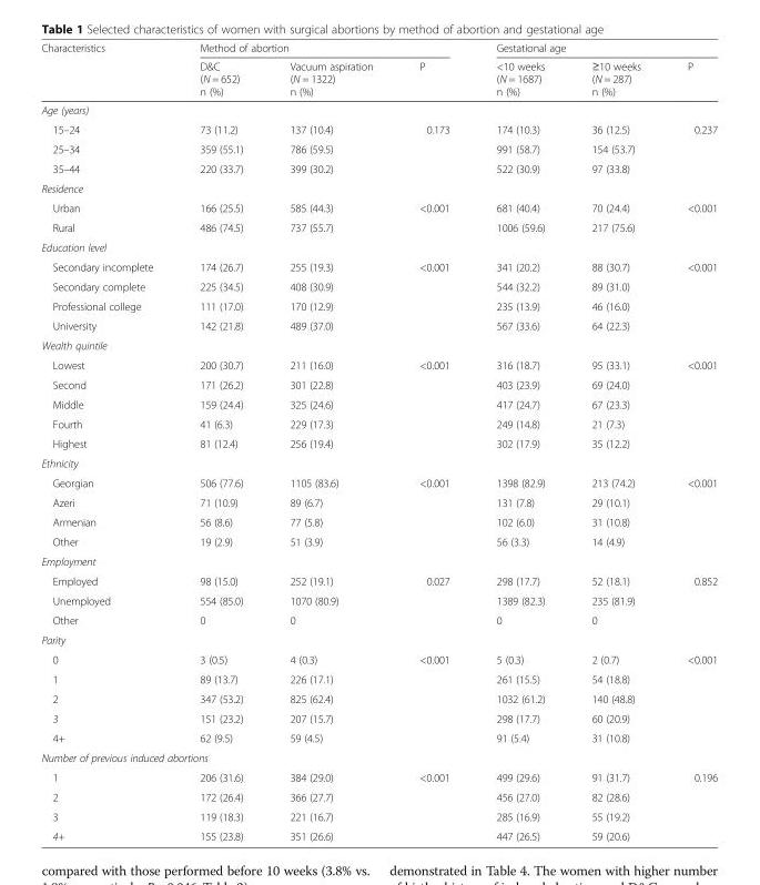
<table><thead><tr><td rowspan="2">Characteristics</td><td colspan="3">Method of abortion</td><td colspan="3">Gestational age</td></tr><tr><td>D&amp;C (N = 652) n (%)</td><td>Vacuum aspiration (N = 1322) n (%)</td><td>P</td><td>&lt;10 weeks (N = 1687) n (%)</td><td>≥10 weeks (N = 287) n (%)</td><td>P</td></tr></thead><tbody><tr><td colspan="7">Age (years)</td></tr><tr><td>15–24</td><td>73 (11.2)</td><td>137 (10.4)</td><td>0.173</td><td>174 (10.3)</td><td>36 (12.5)</td><td>0.237</td></tr><tr><td>25–34</td><td>359 (55.1)</td><td>786 (59.5)</td><td></td><td>991 (58.7)</td><td>154 (53.7)</td><td></td></tr><tr><td>35–44</td><td>220 (33.7)</td><td>399 (30.2)</td><td></td><td>522 (30.9)</td><td>97 (33.8)</td><td></td></tr><tr><td colspan="7">Residence</td></tr><tr><td>Urban</td><td>166 (25.5)</td><td>585 (44.3)</td><td>&lt;0.001</td><td>681 (40.4)</td><td>70 (24.4)</td><td>&lt;0.001</td></tr><tr><td>Rural</td><td>486 (74.5)</td><td>737 (55.7)</td><td></td><td>1006 (59.6)</td><td>217 (75.6)</td><td></td></tr><tr><td colspan="7">Education level</td></tr><tr><td>Secondary incomplete</td><td>174 (26.7)</td><td>255 (19.3)</td><td>&lt;0.001</td><td>341 (20.2)</td><td>88 (30.7)</td><td>&lt;0.001</td></tr><tr><td>Secondary complete</td><td>225 (34.5)</td><td>408 (30.9)</td><td></td><td>544 (32.2)</td><td>89 (31.0)</td><td></td></tr><tr><td>Professional college</td><td>111 (17.0)</td><td>170 (12.9)</td><td></td><td>235 (13.9)</td><td>46 (16.0)</td><td></td></tr><tr><td>University</td><td>142 (21.8)</td><td>489 (37.0)</td><td></td><td>567 (33.6)</td><td>64 (22.3)</td><td></td></tr><tr><td colspan="7">Wealth quintile</td></tr><tr><td>Lowest</td><td>200 (30.7)</td><td>211 (16.0)</td><td>&lt;0.001</td><td>316 (18.7)</td><td>95 (33.1)</td><td>&lt;0.001</td></tr><tr><td>Second</td><td>171 (26.2)</td><td>301 (22.8)</td><td></td><td>403 (23.9)</td><td>69 (24.0)</td><td></td></tr><tr><td>Middle</td><td>159 (24.4)</td><td>325 (24.6)</td><td></td><td>417 (24.7)</td><td>67 (23.3)</td><td></td></tr><tr><td>Fourth</td><td>41 (6.3)</td><td>229 (17.3)</td><td></td><td>249 (14.8)</td><td>21 (7.3)</td><td></td></tr><tr><td>Highest</td><td>81 (12.4)</td><td>256 (19.4)</td><td></td><td>302 (17.9)</td><td>35 (12.2)</td><td></td></tr><tr><td colspan="7">Ethnicity</td></tr><tr><td>Georgian</td><td>506 (77.6)</td><td>1105 (83.6)</td><td>&lt;0.001</td><td>1398 (82.9)</td><td>213 (74.2)</td><td>&lt;0.001</td></tr><tr><td>Azeri</td><td>71 (10.9)</td><td>89 (6.7)</td><td></td><td>131 (7.8)</td><td>29 (10.1)</td><td></td></tr><tr><td>Armenian</td><td>56 (8.6)</td><td>77 (5.8)</td><td></td><td>102 (6.0)</td><td>31 (10.8)</td><td></td></tr><tr><td>Other</td><td>19 (2.9)</td><td>51 (3.9)</td><td></td><td>56 (3.3)</td><td>14 (4.9)</td><td></td></tr><tr><td colspan="7">Employment</td></tr><tr><td>Employed</td><td>98 (15.0)</td><td>252 (19.1)</td><td>0.027</td><td>298 (17.7)</td><td>52 (18.1)</td><td>0.852</td></tr><tr><td>Unemployed</td><td>554 (85.0)</td><td>1070 (80.9)</td><td></td><td>1389 (82.3)</td><td>235 (81.9)</td><td></td></tr><tr><td>Other</td><td>0</td><td>0</td><td></td><td>0</td><td>0</td><td></td></tr><tr><td colspan="7">Parity</td></tr><tr><td>0</td><td>3 (0.5)</td><td>4 (0.3)</td><td>&lt;0.001</td><td>5 (0.3)</td><td>2 (0.7)</td><td>&lt;0.001</td></tr><tr><td>1</td><td>89 (13.7)</td><td>226 (17.1)</td><td></td><td>261 (15.5)</td><td>54 (18.8)</td><td></td></tr><tr><td>2</td><td>347 (53.2)</td><td>825 (62.4)</td><td></td><td>1032 (61.2)</td><td>140 (48.8)</td><td></td></tr><tr><td>3</td><td>151 (23.2)</td><td>207 (15.7)</td><td></td><td>298 (17.7)</td><td>60 (20.9)</td><td></td></tr><tr><td>4+</td><td>62 (9.5)</td><td>59 (4.5)</td><td></td><td>91 (5.4)</td><td>31 (10.8)</td><td></td></tr><tr><td colspan="7">Number of previous induced abortions</td></tr><tr><td>1</td><td>206 (31.6)</td><td>384 (29.0)</td><td>&lt;0.001</td><td>499 (29.6)</td><td>91 (31.7)</td><td>0.196</td></tr><tr><td>2</td><td>172 (26.4)</td><td>366 (27.7)</td><td></td><td>456 (27.0)</td><td>82 (28.6)</td><td></td></tr><tr><td>3</td><td>119 (18.3)</td><td>221 (16.7)</td><td></td><td>285 (16.9)</td><td>55 (19.2)</td><td></td></tr><tr><td>4+</td><td>155 (23.8)</td><td>351 (26.6)</td><td></td><td>447 (26.5)</td><td>59 (20.6)</td><td></td></tr></tbody></table>